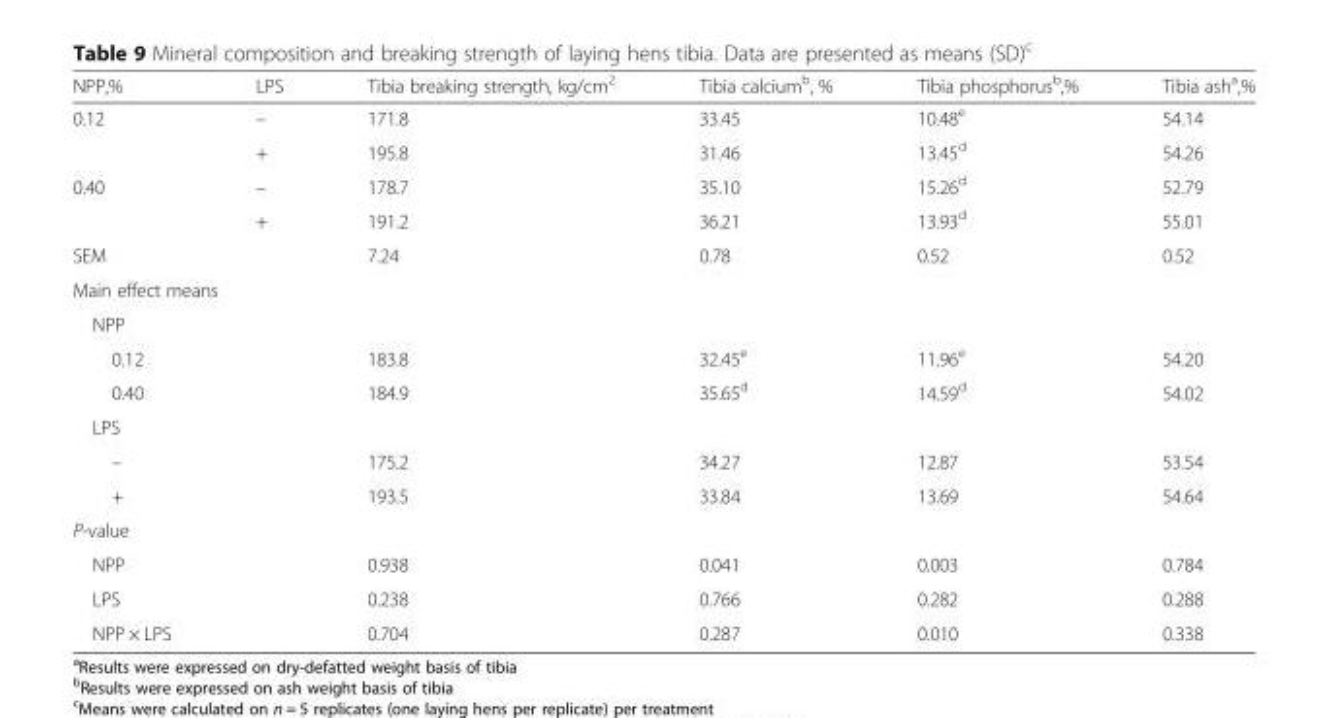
<table><thead><tr><td>NPP,%</td><td>LPS</td><td>Tibia breaking strength, kg/cm<sup>2</sup></td><td>Tibia calcium<sup>b</sup>, %</td><td>Tibia phosphorus<sup>b</sup>,%</td><td>Tibia ash<sup>a</sup>,%</td></tr></thead><tbody><tr><td rowspan="2">0.12</td><td>–</td><td>171.8</td><td>33.45</td><td>10.48<sup>e</sup></td><td>54.14</td></tr><tr><td>+</td><td>195.8</td><td>31.46</td><td>13.45<sup>d</sup></td><td>54.26</td></tr><tr><td rowspan="2">0.40</td><td>–</td><td>178.7</td><td>35.10</td><td>15.26<sup>d</sup></td><td>52.79</td></tr><tr><td>+</td><td>191.2</td><td>36.21</td><td>13.93<sup>d</sup></td><td>55.01</td></tr><tr><td>SEM</td><td></td><td>7.24</td><td>0.78</td><td>0.52</td><td>0.52</td></tr><tr><td colspan="6">Main effect means</td></tr><tr><td colspan="6">NPP</td></tr><tr><td>0.12</td><td></td><td>183.8</td><td>32.45<sup>e</sup></td><td>11.96<sup>e</sup></td><td>54.20</td></tr><tr><td>0.40</td><td></td><td>184.9</td><td>35.65<sup>d</sup></td><td>14.59<sup>d</sup></td><td>54.02</td></tr><tr><td colspan="6">LPS</td></tr><tr><td>–</td><td></td><td>175.2</td><td>34.27</td><td>12.87</td><td>53.54</td></tr><tr><td>+</td><td></td><td>193.5</td><td>33.84</td><td>13.69</td><td>54.64</td></tr><tr><td colspan="6">P-value</td></tr><tr><td>NPP</td><td></td><td>0.938</td><td>0.041</td><td>0.003</td><td>0.784</td></tr><tr><td>LPS</td><td></td><td>0.238</td><td>0.766</td><td>0.282</td><td>0.288</td></tr><tr><td>NPP × LPS</td><td></td><td>0.704</td><td>0.287</td><td>0.010</td><td>0.338</td></tr></tbody></table>